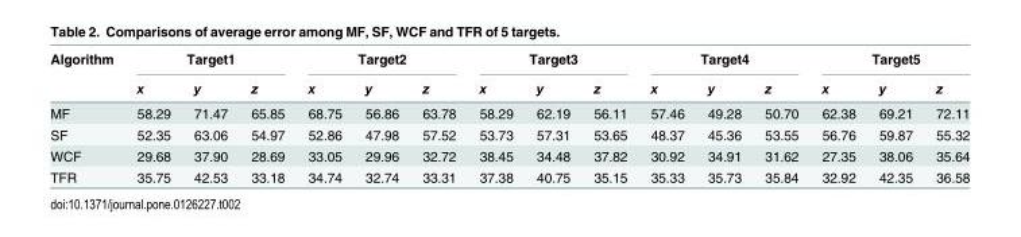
<table><thead><tr><td rowspan="2">Algorithm</td><td colspan="3">Target1</td><td colspan="3">Target2</td><td colspan="3">Target3</td><td colspan="3">Target4</td><td colspan="3">Target5</td></tr><tr><td>x</td><td>y</td><td>z</td><td>x</td><td>y</td><td>z</td><td>x</td><td>y</td><td>z</td><td>x</td><td>y</td><td>z</td><td>x</td><td>y</td><td>z</td></tr></thead><tbody><tr><td>MF</td><td>58.29</td><td>71.47</td><td>65.85</td><td>68.75</td><td>56.86</td><td>63.78</td><td>58.29</td><td>62.19</td><td>56.11</td><td>57.46</td><td>49.28</td><td>50.70</td><td>62.38</td><td>69.21</td><td>72.11</td></tr><tr><td>SF</td><td>52.35</td><td>63.06</td><td>54.97</td><td>52.86</td><td>47.98</td><td>57.52</td><td>53.73</td><td>57.31</td><td>53.65</td><td>48.37</td><td>45.36</td><td>53.55</td><td>56.76</td><td>59.87</td><td>55.32</td></tr><tr><td>WCF</td><td>29.68</td><td>37.90</td><td>28.69</td><td>33.05</td><td>29.96</td><td>32.72</td><td>38.45</td><td>34.48</td><td>37.82</td><td>30.92</td><td>34.91</td><td>31.62</td><td>27.35</td><td>38.06</td><td>35.64</td></tr><tr><td>TFR</td><td>35.75</td><td>42.53</td><td>33.18</td><td>34.74</td><td>32.74</td><td>33.31</td><td>37.38</td><td>40.75</td><td>35.15</td><td>35.33</td><td>35.73</td><td>35.84</td><td>32.92</td><td>42.35</td><td>36.58</td></tr></tbody></table>